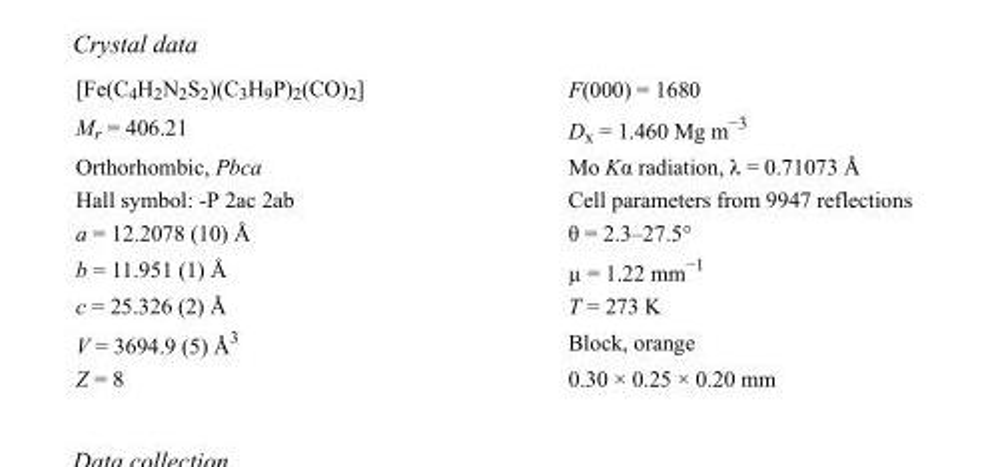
<table><tbody><tr><td>[Fe(C<sub>4</sub>H<sub>2</sub>N<sub>2</sub>S<sub>2</sub>)(C<sub>3</sub>H<sub>9</sub>P)<sub>2</sub>(CO)<sub>2</sub>]</td><td>F(000) = 1680</td></tr><tr><td>M<sub>r</sub> = 406.21</td><td>D<sub>x</sub> = 1.460 Mg m<sup>−3</sup></td></tr><tr><td>Orthorhombic, Pbca</td><td>Mo Kα radiation, λ = 0.71073 Å</td></tr><tr><td>Hall symbol: -P 2ac 2ab</td><td>Cell parameters from 9947 reflections</td></tr><tr><td>a = 12.2078 (10) Å</td><td>θ = 2.3–27.5°</td></tr><tr><td>b = 11.951 (1) Å</td><td>µ = 1.22 mm<sup>−1</sup></td></tr><tr><td>c = 25.326 (2) Å</td><td>T = 273 K</td></tr><tr><td>V = 3694.9 (5) Å<sup>3</sup></td><td>Block, orange</td></tr><tr><td>Z = 8</td><td>0.30 × 0.25 × 0.20 mm</td></tr></tbody></table>